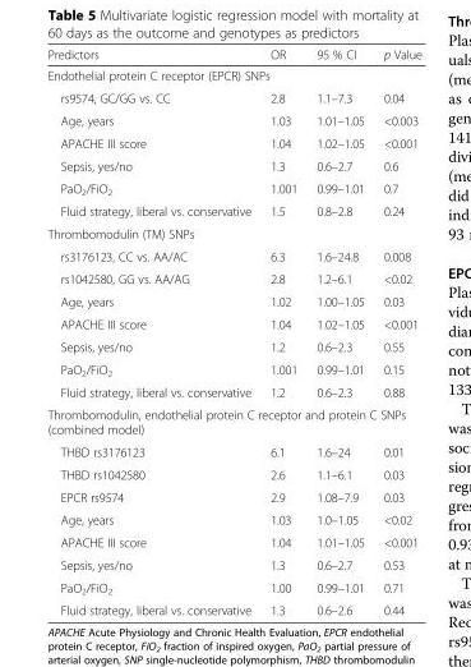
<table><thead><tr><td>Predictors</td><td>OR</td><td>95 % CI</td><td>p Value</td></tr></thead><tbody><tr><td colspan="4">Endothelial protein C receptor (EPCR) SNPs</td></tr><tr><td>rs9574, GC/GG vs. CC</td><td>2.8</td><td>1.1–7.3</td><td>0.04</td></tr><tr><td>Age, years</td><td>1.03</td><td>1.01–1.05</td><td>&lt;0.003</td></tr><tr><td>APACHE III score</td><td>1.04</td><td>1.02–1.05</td><td>&lt;0.001</td></tr><tr><td>Sepsis, yes/no</td><td>1.3</td><td>0.6–2.7</td><td>0.6</td></tr><tr><td>PaO<sub>2</sub>/FiO<sub>2</sub></td><td>1.001</td><td>0.99–1.01</td><td>0.7</td></tr><tr><td>Fluid strategy, liberal vs. conservative</td><td>1.5</td><td>0.8–2.8</td><td>0.24</td></tr><tr><td colspan="4">Thrombomodulin (TM) SNPs</td></tr><tr><td>rs3176123, CC vs. AA/AC</td><td>6.3</td><td>1.6–24.8</td><td>0.008</td></tr><tr><td>rs1042580, GG vs. AA/AG</td><td>2.8</td><td>1.2–6.1</td><td>&lt;0.02</td></tr><tr><td>Age, years</td><td>1.02</td><td>1.00–1.05</td><td>0.03</td></tr><tr><td>APACHE III score</td><td>1.04</td><td>1.02–1.05</td><td>&lt;0.001</td></tr><tr><td>Sepsis, yes/no</td><td>1.2</td><td>0.6–2.3</td><td>0.55</td></tr><tr><td>PaO<sub>2</sub>/FiO<sub>2</sub></td><td>1.001</td><td>0.99–1.01</td><td>0.15</td></tr><tr><td>Fluid strategy, liberal vs. conservative</td><td>1.2</td><td>0.6–2.3</td><td>0.88</td></tr><tr><td colspan="4">Thrombomodulin, endothelial protein C receptor and protein C SNPs (combined model)</td></tr><tr><td>THBD rs3176123</td><td>6.1</td><td>1.6–24</td><td>0.01</td></tr><tr><td>THBD rs1042580</td><td>2.6</td><td>1.1–6.1</td><td>0.03</td></tr><tr><td>EPCR rs9574</td><td>2.9</td><td>1.08–7.9</td><td>0.03</td></tr><tr><td>Age, years</td><td>1.03</td><td>1.0–1.05</td><td>&lt;0.02</td></tr><tr><td>APACHE III score</td><td>1.04</td><td>1.01–1.05</td><td>&lt;0.001</td></tr><tr><td>Sepsis, yes/no</td><td>1.3</td><td>0.6–2.7</td><td>0.53</td></tr><tr><td>PaO<sub>2</sub>/FiO<sub>2</sub></td><td>1.00</td><td>0.99–1.01</td><td>0.71</td></tr><tr><td>Fluid strategy, liberal vs. conservative</td><td>1.3</td><td>0.6–2.6</td><td>0.44</td></tr></tbody></table>